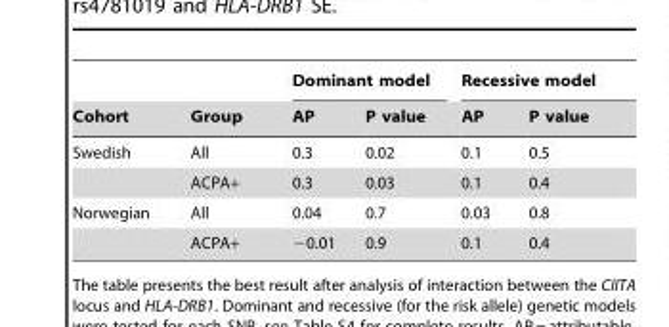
<table><thead><tr><td rowspan="2">Cohort</td><td rowspan="2">Group</td><td colspan="2">Dominant model</td><td colspan="2">Recessive model</td></tr><tr><td>AP</td><td>P value</td><td>AP</td><td>P value</td></tr></thead><tbody><tr><td rowspan="2">Swedish</td><td>All</td><td>0.3</td><td>0.02</td><td>0.1</td><td>0.5</td></tr><tr><td>ACPA+</td><td>0.3</td><td>0.03</td><td>0.1</td><td>0.4</td></tr><tr><td rowspan="2">Norwegian</td><td>All</td><td>0.04</td><td>0.7</td><td>0.03</td><td>0.8</td></tr><tr><td>ACPA+</td><td>−0.01</td><td>0.9</td><td>0.1</td><td>0.4</td></tr></tbody></table>